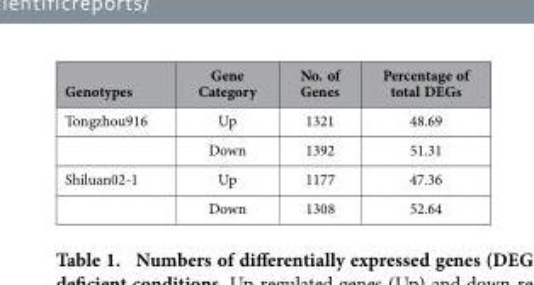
<table><thead><tr><td>Genotypes</td><td>Gene Category</td><td>No. of Genes</td><td>Percentage of total DEGs</td></tr></thead><tbody><tr><td rowspan="2">Tongzhou916</td><td>Up</td><td>1321</td><td>48.69</td></tr><tr><td>Down</td><td>1392</td><td>51.31</td></tr><tr><td rowspan="2">Shiluan02-1</td><td>Up</td><td>1177</td><td>47.36</td></tr><tr><td>Down</td><td>1308</td><td>52.64</td></tr></tbody></table>